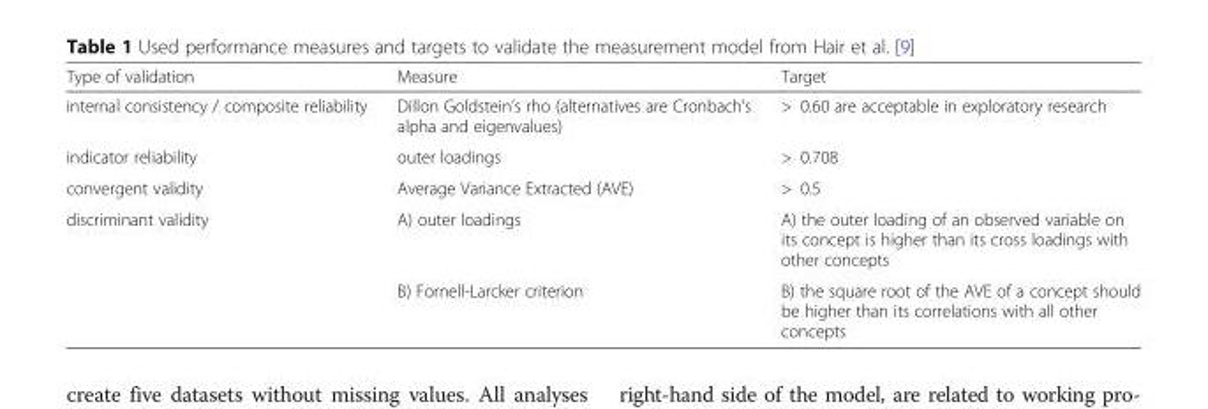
<table><thead><tr><td>Type of validation</td><td>Measure</td><td>Target</td></tr></thead><tbody><tr><td>internal consistency / composite reliability</td><td>Dillon Goldstein’s rho (alternatives are Cronbach’s alpha and eigenvalues)</td><td>&gt; 0.60 are acceptable in exploratory research</td></tr><tr><td>indicator reliability</td><td>outer loadings</td><td>&gt; 0.708</td></tr><tr><td>convergent validity</td><td>Average Variance Extracted (AVE)</td><td>&gt; 0.5</td></tr><tr><td rowspan="2">discriminant validity</td><td>A) outer loadings</td><td>A) the outer loading of an observed variable on its concept is higher than its cross loadings with other concepts</td></tr><tr><td>B) Fornell-Larcker criterion</td><td>B) the square root of the AVE of a concept should be higher than its correlations with all other concepts</td></tr></tbody></table>